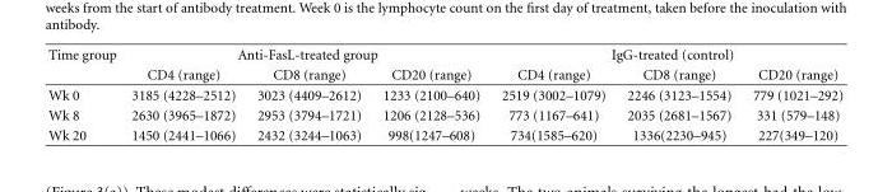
<table><thead><tr><td rowspan="2">Time group</td><td colspan="3">Anti-FasL-treated group</td><td colspan="3">IgG-treated (control)</td></tr><tr><td>CD4 (range)</td><td>CD8 (range)</td><td>CD20 (range)</td><td>CD4 (range)</td><td>CD8 (range)</td><td>CD20 (range)</td></tr></thead><tbody><tr><td>Wk 0</td><td>3185 (4228–2512)</td><td>3023 (4409–2612)</td><td>1233 (2100–640)</td><td>2519 (3002–1079)</td><td>2246 (3123–1554)</td><td>779 (1021–292)</td></tr><tr><td>Wk 8</td><td>2630 (3965–1872)</td><td>2953 (3794–1721)</td><td>1206 (2128–536)</td><td>773 (1167–641)</td><td>2035 (2681–1567)</td><td>331 (579–148)</td></tr><tr><td>Wk 20</td><td>1450 (2441–1066)</td><td>2432 (3244–1063)</td><td>998(1247–608)</td><td>734(1585–620)</td><td>1336(2230–945)</td><td>227(349–120)</td></tr></tbody></table>